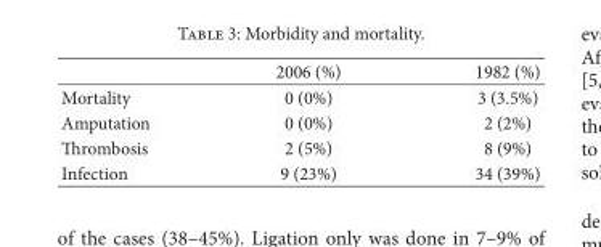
<table><thead><tr><td></td><td>2006 (%)</td><td>1982 (%)</td></tr></thead><tbody><tr><td>Mortality</td><td>0 (0%)</td><td>3 (3.5%)</td></tr><tr><td>Amputation</td><td>0 (0%)</td><td>2 (2%)</td></tr><tr><td>rombosis</td><td>2 (5%)</td><td>8 (9%)</td></tr><tr><td>Infection</td><td>9 (23%)</td><td>34 (39%)</td></tr></tbody></table>